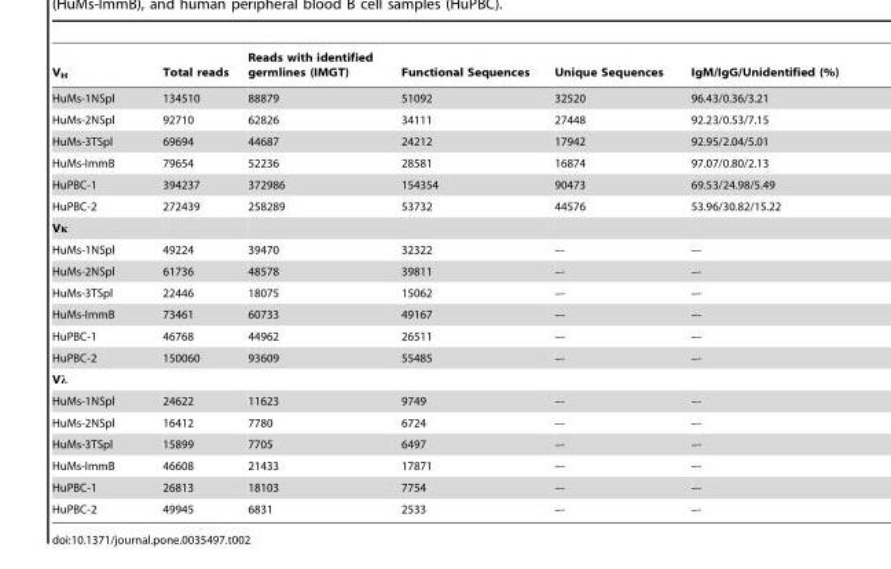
<table><thead><tr><td>V<sub>H</sub></td><td>Total reads</td><td>Reads with identified germlines (IMGT)</td><td>Functional Sequences</td><td>Unique Sequences</td><td>IgM/IgG/Unidentified (%)</td></tr></thead><tbody><tr><td>HuMs-1NSpl</td><td>134510</td><td>88879</td><td>51092</td><td>32520</td><td>96.43/0.36/3.21</td></tr><tr><td>HuMs-2NSpl</td><td>92710</td><td>62826</td><td>34111</td><td>27448</td><td>92.23/0.53/7.15</td></tr><tr><td>HuMs-3TSpl</td><td>69694</td><td>44687</td><td>24212</td><td>17942</td><td>92.95/2.04/5.01</td></tr><tr><td>HuMs-ImmB</td><td>79654</td><td>52236</td><td>28581</td><td>16874</td><td>97.07/0.80/2.13</td></tr><tr><td>HuPBC-1</td><td>394237</td><td>372986</td><td>154354</td><td>90473</td><td>69.53/24.98/5.49</td></tr><tr><td>HuPBC-2</td><td>272439</td><td>258289</td><td>53732</td><td>44576</td><td>53.96/30.82/15.22</td></tr><tr><td colspan="6">Vκ</td></tr><tr><td>HuMs-1NSpl</td><td>49224</td><td>39470</td><td>32322</td><td>–-</td><td>–-</td></tr><tr><td>HuMs-2NSpl</td><td>61736</td><td>48578</td><td>39811</td><td>–-</td><td>–-</td></tr><tr><td>HuMs-3TSpl</td><td>22446</td><td>18075</td><td>15062</td><td>–-</td><td>–-</td></tr><tr><td>HuMs-ImmB</td><td>73461</td><td>60733</td><td>49167</td><td>–-</td><td>–-</td></tr><tr><td>HuPBC-1</td><td>46768</td><td>44962</td><td>26511</td><td>–-</td><td>–-</td></tr><tr><td>HuPBC-2</td><td>150060</td><td>93609</td><td>55485</td><td>–-</td><td>–-</td></tr><tr><td colspan="6">Vλ</td></tr><tr><td>HuMs-1NSpl</td><td>24622</td><td>11623</td><td>9749</td><td>–-</td><td>–-</td></tr><tr><td>HuMs-2NSpl</td><td>16412</td><td>7780</td><td>6724</td><td>–-</td><td>–-</td></tr><tr><td>HuMs-3TSpl</td><td>15899</td><td>7705</td><td>6497</td><td>–-</td><td>–-</td></tr><tr><td>HuMs-ImmB</td><td>46608</td><td>21433</td><td>17871</td><td>–-</td><td>–-</td></tr><tr><td>HuPBC-1</td><td>26813</td><td>18103</td><td>7754</td><td>–-</td><td>–-</td></tr><tr><td>HuPBC-2</td><td>49945</td><td>6831</td><td>2533</td><td>–-</td><td>–-</td></tr></tbody></table>